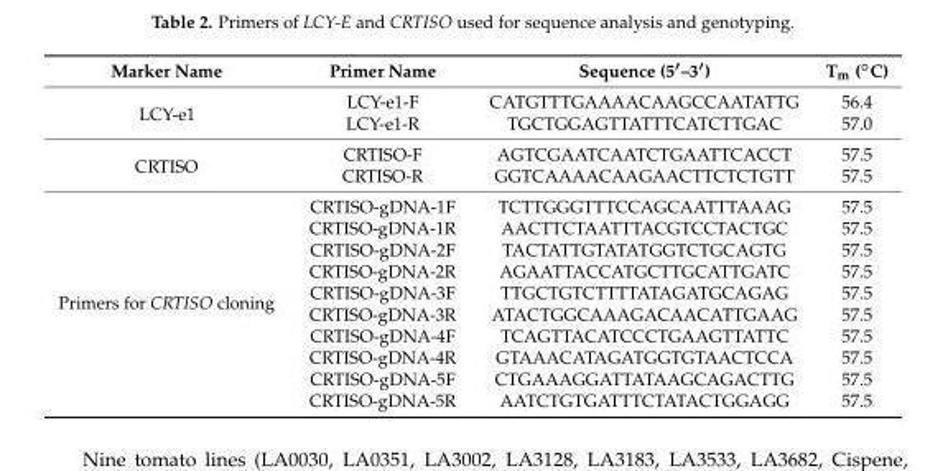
<table><thead><tr><td>Marker Name</td><td>Primer Name</td><td>Sequence (5′–3′)</td><td>Tm (◦C)</td></tr></thead><tbody><tr><td rowspan="2">LCY-e1</td><td>LCY-e1-F</td><td>CATGTTTGAAAACAAGCCAATATTG</td><td>56.4</td></tr><tr><td>LCY-e1-R</td><td>TGCTGGAGTTATTTCATCTTGAC</td><td>57.0</td></tr><tr><td rowspan="2">CRTISO</td><td>CRTISO-F</td><td>AGTCGAATCAATCTGAATTCACCT</td><td>57.5</td></tr><tr><td>CRTISO-R</td><td>GGTCAAAACAAGAACTTCTCTGTT</td><td>57.5</td></tr><tr><td rowspan="10">Primers for CRTISO cloning</td><td>CRTISO-gDNA-1F</td><td>TCTTGGGTTTCCAGCAATTTAAAG</td><td>57.5</td></tr><tr><td>CRTISO-gDNA-1R</td><td>AACTTCTAATTTACGTCCTACTGC</td><td>57.5</td></tr><tr><td>CRTISO-gDNA-2F</td><td>TACTATTGTATATGGTCTGCAGTG</td><td>57.5</td></tr><tr><td>CRTISO-gDNA-2R</td><td>AGAATTACCATGCTTGCATTGATC</td><td>57.5</td></tr><tr><td>CRTISO-gDNA-3F</td><td>TTGCTGTCTTTTATAGATGCAGAG</td><td>57.5</td></tr><tr><td>CRTISO-gDNA-3R</td><td>ATACTGGCAAAGACAACATTGAAG</td><td>57.5</td></tr><tr><td>CRTISO-gDNA-4F</td><td>TCAGTTACATCCCTGAAGTTATTC</td><td>57.5</td></tr><tr><td>CRTISO-gDNA-4R</td><td>GTAAACATAGATGGTGTAACTCCA</td><td>57.5</td></tr><tr><td>CRTISO-gDNA-5F</td><td>CTGAAAGGATTATAAGCAGACTTG</td><td>57.5</td></tr><tr><td>CRTISO-gDNA-5R</td><td>AATCTGTGATTTCTATACTGGAGG</td><td>57.5</td></tr></tbody></table>